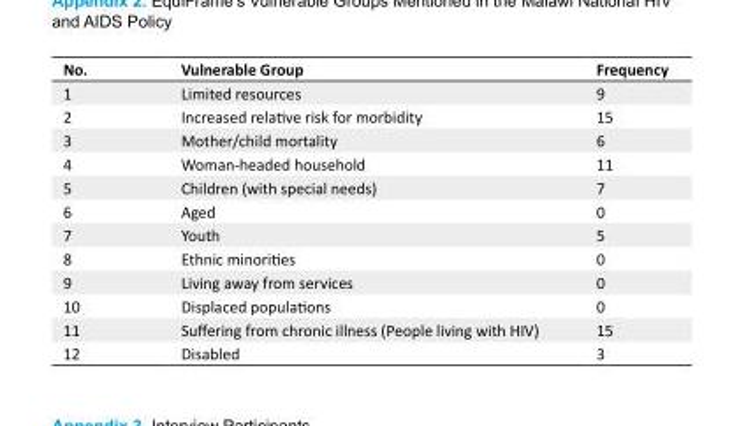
<table><tbody><tr><td>No.</td><td>Vulnerable Group</td><td>Frequency</td></tr><tr><td>1</td><td>Limited resources</td><td>9</td></tr><tr><td>2</td><td>Increased relative risk for morbidity</td><td>15</td></tr><tr><td>3</td><td>Mother/child mortality</td><td>6</td></tr><tr><td>4</td><td>Woman-headed household</td><td>11</td></tr><tr><td>5</td><td>Children (with special needs)</td><td>7</td></tr><tr><td>6</td><td>Aged</td><td>0</td></tr><tr><td>7</td><td>Youth</td><td>5</td></tr><tr><td>8</td><td>Ethnic minorities</td><td>0</td></tr><tr><td>9</td><td>Living away from services</td><td>0</td></tr><tr><td>10</td><td>Displaced populations</td><td>0</td></tr><tr><td>11</td><td>Suffering from chronic illness (People living with HIV)</td><td>15</td></tr><tr><td>12</td><td>Disabled</td><td>3</td></tr></tbody></table>